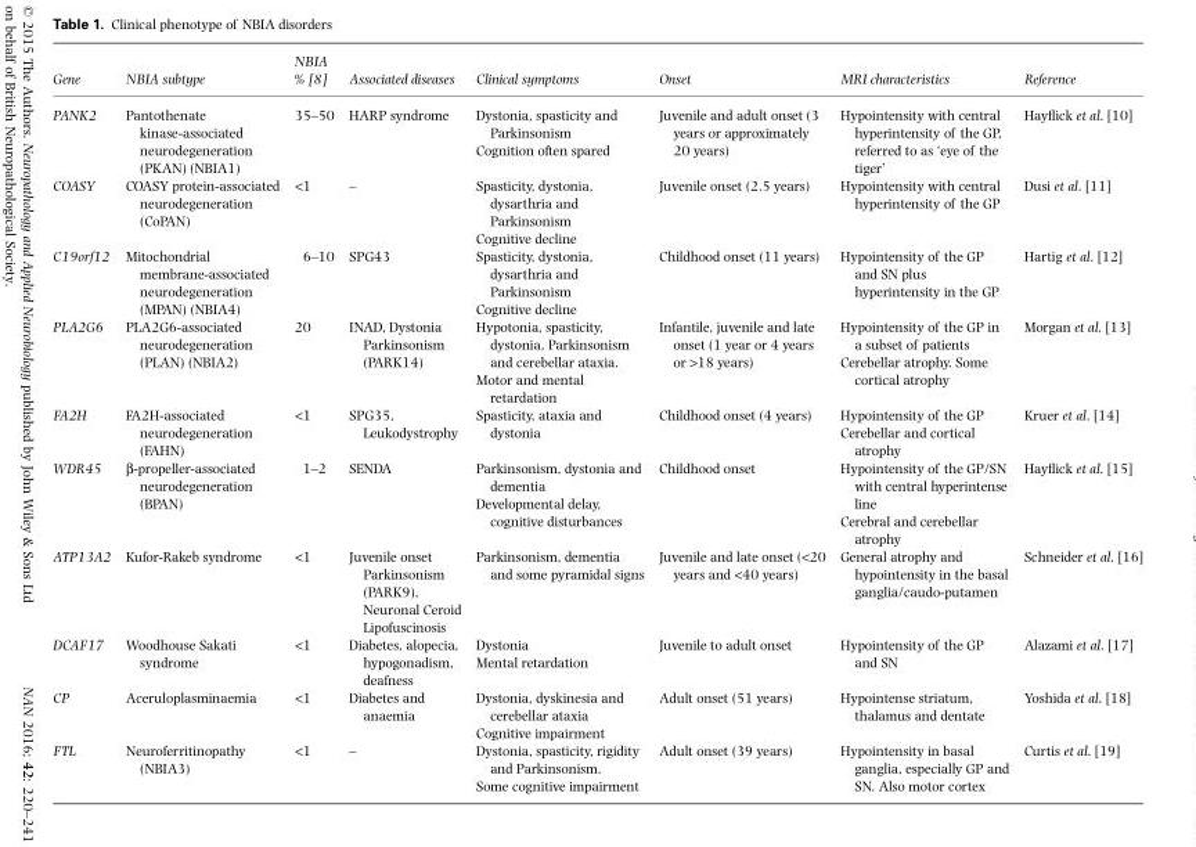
<table><thead><tr><td>Gene</td><td>NBIA subtype</td><td>NBIA % [8]</td><td>Associated diseases</td><td>Clinical symptoms</td><td>Onset</td><td>MRI characteristics</td><td>Reference</td></tr></thead><tbody><tr><td>PANK2</td><td>Pantothenate kinase-associated neurodegeneration (PKAN) (NBIA1)</td><td>35–50</td><td>HARP syndrome</td><td>Dystonia, spasticity and Parkinsonism Cognition often spared</td><td>Juvenile and adult onset (3 years or approximately 20 years)</td><td>Hypointensity with central hyperintensity of the GP, referred to as ‘eye of the tiger’</td><td>Hayflick et al. [10]</td></tr><tr><td>COASY</td><td>COASY protein-associated neurodegeneration (CoPAN)</td><td>&lt;1</td><td>–</td><td>Spasticity, dystonia, dysarthria and Parkinsonism Cognitive decline</td><td>Juvenile onset (2.5 years)</td><td>Hypointensity with central hyperintensity of the GP</td><td>Dusi et al. [11]</td></tr><tr><td>C19orf12</td><td>Mitochondrial membrane-associated neurodegeneration (MPAN) (NBIA4)</td><td>6–10</td><td>SPG43</td><td>Spasticity, dystonia, dysarthria and Parkinsonism Cognitive decline</td><td>Childhood onset (11 years)</td><td>Hypointensity of the GP and SN plus hyperintensity in the GP</td><td>Hartig et al. [12]</td></tr><tr><td>PLA2G6</td><td>PLA2G6-associated neurodegeneration (PLAN) (NBIA2)</td><td>20</td><td>INAD, Dystonia Parkinsonism (PARK14)</td><td>Hypotonia, spasticity, dystonia, Parkinsonism and cerebellar ataxia. Motor and mental retardation</td><td>Infantile, juvenile and late onset (1 year or 4 years or &gt;18 years)</td><td>Hypointensity of the GP in a subset of patients Cerebellar atrophy. Some cortical atrophy</td><td>Morgan et al. [13]</td></tr><tr><td>FA2H</td><td>FA2H-associated neurodegeneration (FAHN)</td><td>&lt;1</td><td>SPG35, Leukodystrophy</td><td>Spasticity, ataxia and dystonia</td><td>Childhood onset (4 years)</td><td>Hypointensity of the GP Cerebellar and cortical atrophy</td><td>Kruer et al. [14]</td></tr><tr><td>WDR45</td><td>β-propeller-associated neurodegeneration (BPAN)</td><td>1–2</td><td>SENDA</td><td>Parkinsonism, dystonia and dementia Developmental delay, cognitive disturbances</td><td>Childhood onset</td><td>Hypointensity of the GP/SN with central hyperintense line Cerebral and cerebellar atrophy</td><td>Hayflick et al. [15]</td></tr><tr><td>ATP13A2</td><td>Kufor-Rakeb syndrome</td><td>&lt;1</td><td>Juvenile onset Parkinsonism (PARK9), Neuronal Ceroid Lipofuscinosis</td><td>Parkinsonism, dementia and some pyramidal signs</td><td>Juvenile and late onset (&lt;20 years and &lt;40 years)</td><td>General atrophy and hypointensity in the basal ganglia/caudo-putamen</td><td>Schneider et al. [16]</td></tr><tr><td>DCAF17</td><td>Woodhouse Sakati syndrome</td><td>&lt;1</td><td>Diabetes, alopecia, hypogonadism, deafness</td><td>Dystonia Mental retardation</td><td>Juvenile to adult onset</td><td>Hypointensity of the GP and SN</td><td>Alazami et al. [17]</td></tr><tr><td>CP</td><td>Aceruloplasminaemia</td><td>&lt;1</td><td>Diabetes and anaemia</td><td>Dystonia, dyskinesia and cerebellar ataxia Cognitive impairment</td><td>Adult onset (51 years)</td><td>Hypointense striatum, thalamus and dentate</td><td>Yoshida et al. [18]</td></tr><tr><td>FTL</td><td>Neuroferritinopathy (NBIA3)</td><td>&lt;1</td><td>–</td><td>Dystonia, spasticity, rigidity and Parkinsonism. Some cognitive impairment</td><td>Adult onset (39 years)</td><td>Hypointensity in basal ganglia, especially GP and SN. Also motor cortex</td><td>Curtis et al. [19]</td></tr></tbody></table>